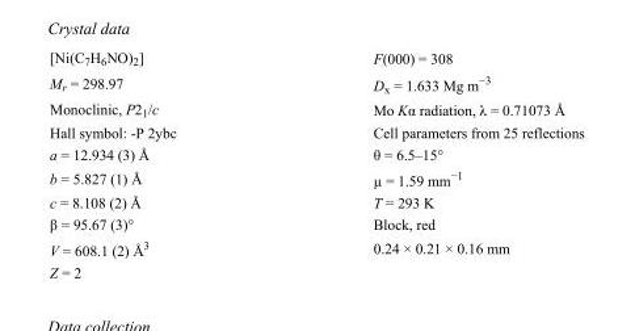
<table><tbody><tr><td>[Ni(C<sub>7</sub>H<sub>6</sub>NO)<sub>2</sub>]</td><td>F(000) = 308</td></tr><tr><td>M<sub>r</sub> = 298.97</td><td>D<sub>x</sub> = 1.633 Mg m<sup>−3</sup></td></tr><tr><td>Monoclinic, P2<sub>1</sub>/c</td><td>Mo Kα radiation, λ = 0.71073 Å</td></tr><tr><td>Hall symbol: -P 2ybc</td><td>Cell parameters from 25 reflections</td></tr><tr><td>a = 12.934 (3) Å</td><td>θ = 6.5–15°</td></tr><tr><td>b = 5.827 (1) Å</td><td>µ = 1.59 mm<sup>−1</sup></td></tr><tr><td>c = 8.108 (2) Å</td><td>T = 293 K</td></tr><tr><td>β = 95.67 (3)°</td><td>Block, red</td></tr><tr><td>V = 608.1 (2) Å<sup>3</sup></td><td>0.24 × 0.21 × 0.16 mm</td></tr><tr><td>Z = 2</td><td></td></tr></tbody></table>